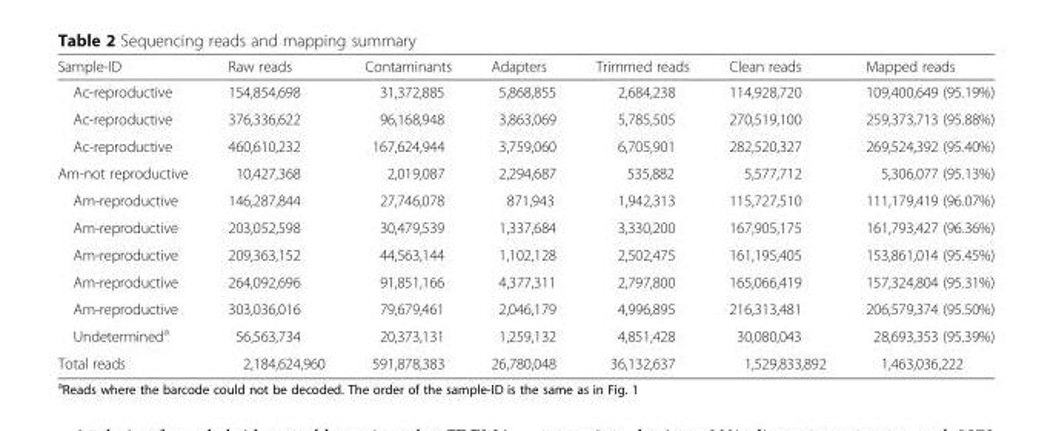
<table><thead><tr><td>Sample-ID</td><td>Raw reads</td><td>Contaminants</td><td>Adapters</td><td>Trimmed reads</td><td>Clean reads</td><td>Mapped reads</td></tr></thead><tbody><tr><td>Ac-reproductive</td><td>154,854,698</td><td>31,372,885</td><td>5,868,855</td><td>2,684,238</td><td>114,928,720</td><td>109,400,649 (95.19%)</td></tr><tr><td>Ac-reproductive</td><td>376,336,622</td><td>96,168,948</td><td>3,863,069</td><td>5,785,505</td><td>270,519,100</td><td>259,373,713 (95.88%)</td></tr><tr><td>Ac-reproductive</td><td>460,610,232</td><td>167,624,944</td><td>3,759,060</td><td>6,705,901</td><td>282,520,327</td><td>269,524,392 (95.40%)</td></tr><tr><td>Am-not reproductive</td><td>10,427,368</td><td>2,019,087</td><td>2,294,687</td><td>535,882</td><td>5,577,712</td><td>5,306,077 (95.13%)</td></tr><tr><td>Am-reproductive</td><td>146,287,844</td><td>27,746,078</td><td>871,943</td><td>1,942,313</td><td>115,727,510</td><td>111,179,419 (96.07%)</td></tr><tr><td>Am-reproductive</td><td>203,052,598</td><td>30,479,539</td><td>1,337,684</td><td>3,330,200</td><td>167,905,175</td><td>161,793,427 (96.36%)</td></tr><tr><td>Am-reproductive</td><td>209,363,152</td><td>44,563,144</td><td>1,102,128</td><td>2,502,475</td><td>161,195,405</td><td>153,861,014 (95.45%)</td></tr><tr><td>Am-reproductive</td><td>264,092,696</td><td>91,851,166</td><td>4,377,311</td><td>2,797,800</td><td>165,066,419</td><td>157,324,804 (95.31%)</td></tr><tr><td>Am-reproductive</td><td>303,036,016</td><td>79,679,461</td><td>2,046,179</td><td>4,996,895</td><td>216,313,481</td><td>206,579,374 (95.50%)</td></tr><tr><td>Undetermined<sup>a</sup></td><td>56,563,734</td><td>20,373,131</td><td>1,259,132</td><td>4,851,428</td><td>30,080,043</td><td>28,693,353 (95.39%)</td></tr><tr><td>Total reads</td><td>2,184,624,960</td><td>591,878,383</td><td>26,780,048</td><td>36,132,637</td><td>1,529,833,892</td><td>1,463,036,222</td></tr></tbody></table>